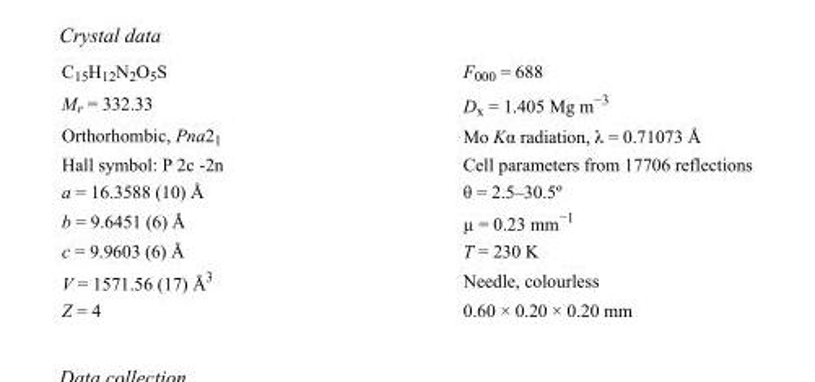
<table><tbody><tr><td>C<sub>15</sub>H<sub>12</sub>N<sub>2</sub>O<sub>5</sub>S</td><td>F000 = 688</td></tr><tr><td>M<sub>r</sub> = 332.33</td><td>D<sub>x</sub> = 1.405 Mg m<sup>−3</sup></td></tr><tr><td>Orthorhombic, Pna2<sub>1</sub></td><td>Mo Kα radiation, λ = 0.71073 Å</td></tr><tr><td>Hall symbol: P 2c -2n</td><td>Cell parameters from 17706 reflections</td></tr><tr><td>a = 16.3588 (10) Å</td><td>θ = 2.5–30.5º</td></tr><tr><td>b = 9.6451 (6) Å</td><td>µ = 0.23 mm<sup>−1</sup></td></tr><tr><td>c = 9.9603 (6) Å</td><td>T = 230 K</td></tr><tr><td>V = 1571.56 (17) Å<sup>3</sup></td><td>Needle, colourless</td></tr><tr><td>Z = 4</td><td>0.60 × 0.20 × 0.20 mm</td></tr></tbody></table>